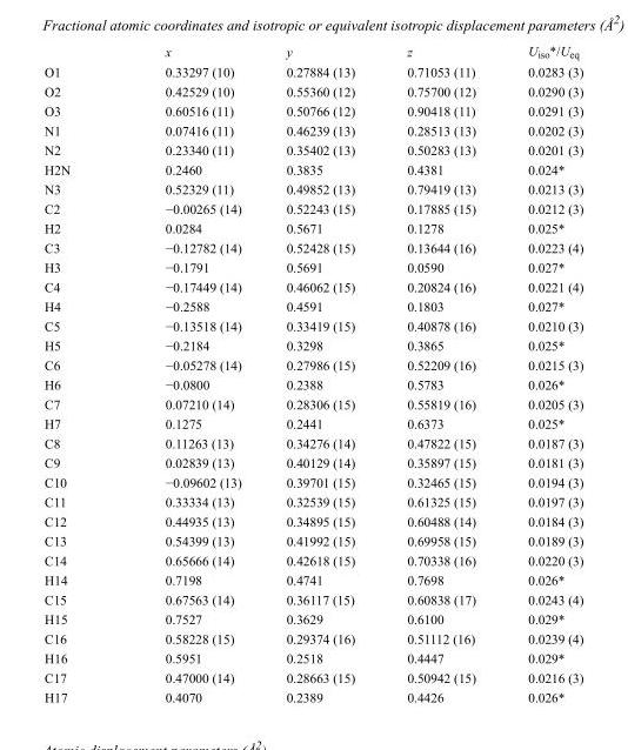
<table><thead><tr><td></td><td>x</td><td>y</td><td>z</td><td>U<sub>iso</sub>*/U<sub>eq</sub></td></tr></thead><tbody><tr><td>O1</td><td>0.33297 (10)</td><td>0.27884 (13)</td><td>0.71053 (11)</td><td>0.0283 (3)</td></tr><tr><td>O2</td><td>0.42529 (10)</td><td>0.55360 (12)</td><td>0.75700 (12)</td><td>0.0290 (3)</td></tr><tr><td>O3</td><td>0.60516 (11)</td><td>0.50766 (12)</td><td>0.90418 (11)</td><td>0.0291 (3)</td></tr><tr><td>N1</td><td>0.07416 (11)</td><td>0.46239 (13)</td><td>0.28513 (13)</td><td>0.0202 (3)</td></tr><tr><td>N2</td><td>0.23340 (11)</td><td>0.35402 (13)</td><td>0.50283 (13)</td><td>0.0201 (3)</td></tr><tr><td>H2N</td><td>0.2460</td><td>0.3835</td><td>0.4381</td><td>0.024*</td></tr><tr><td>N3</td><td>0.52329 (11)</td><td>0.49852 (13)</td><td>0.79419 (13)</td><td>0.0213 (3)</td></tr><tr><td>C2</td><td>−0.00265 (14)</td><td>0.52243 (15)</td><td>0.17885 (15)</td><td>0.0212 (3)</td></tr><tr><td>H2</td><td>0.0284</td><td>0.5671</td><td>0.1278</td><td>0.025*</td></tr><tr><td>C3</td><td>−0.12782 (14)</td><td>0.52428 (15)</td><td>0.13644 (16)</td><td>0.0223 (4)</td></tr><tr><td>H3</td><td>−0.1791</td><td>0.5691</td><td>0.0590</td><td>0.027*</td></tr><tr><td>C4</td><td>−0.17449 (14)</td><td>0.46062 (15)</td><td>0.20824 (16)</td><td>0.0221 (4)</td></tr><tr><td>H4</td><td>−0.2588</td><td>0.4591</td><td>0.1803</td><td>0.027*</td></tr><tr><td>C5</td><td>−0.13518 (14)</td><td>0.33419 (15)</td><td>0.40878 (16)</td><td>0.0210 (3)</td></tr><tr><td>H5</td><td>−0.2184</td><td>0.3298</td><td>0.3865</td><td>0.025*</td></tr><tr><td>C6</td><td>−0.05278 (14)</td><td>0.27986 (15)</td><td>0.52209 (16)</td><td>0.0215 (3)</td></tr><tr><td>H6</td><td>−0.0800</td><td>0.2388</td><td>0.5783</td><td>0.026*</td></tr><tr><td>C7</td><td>0.07210 (14)</td><td>0.28306 (15)</td><td>0.55819 (16)</td><td>0.0205 (3)</td></tr><tr><td>H7</td><td>0.1275</td><td>0.2441</td><td>0.6373</td><td>0.025*</td></tr><tr><td>C8</td><td>0.11263 (13)</td><td>0.34276 (14)</td><td>0.47822 (15)</td><td>0.0187 (3)</td></tr><tr><td>C9</td><td>0.02839 (13)</td><td>0.40129 (14)</td><td>0.35897 (15)</td><td>0.0181 (3)</td></tr><tr><td>C10</td><td>−0.09602 (13)</td><td>0.39701 (15)</td><td>0.32465 (15)</td><td>0.0194 (3)</td></tr><tr><td>C11</td><td>0.33334 (13)</td><td>0.32539 (15)</td><td>0.61325 (15)</td><td>0.0197 (3)</td></tr><tr><td>C12</td><td>0.44935 (13)</td><td>0.34895 (15)</td><td>0.60488 (14)</td><td>0.0184 (3)</td></tr><tr><td>C13</td><td>0.54399 (13)</td><td>0.41992 (15)</td><td>0.69958 (15)</td><td>0.0189 (3)</td></tr><tr><td>C14</td><td>0.65666 (14)</td><td>0.42618 (15)</td><td>0.70338 (16)</td><td>0.0220 (3)</td></tr><tr><td>H14</td><td>0.7198</td><td>0.4741</td><td>0.7698</td><td>0.026*</td></tr><tr><td>C15</td><td>0.67563 (14)</td><td>0.36117 (15)</td><td>0.60838 (17)</td><td>0.0243 (4)</td></tr><tr><td>H15</td><td>0.7527</td><td>0.3629</td><td>0.6100</td><td>0.029*</td></tr><tr><td>C16</td><td>0.58228 (15)</td><td>0.29374 (16)</td><td>0.51112 (16)</td><td>0.0239 (4)</td></tr><tr><td>H16</td><td>0.5951</td><td>0.2518</td><td>0.4447</td><td>0.029*</td></tr><tr><td>C17</td><td>0.47000 (14)</td><td>0.28663 (15)</td><td>0.50942 (15)</td><td>0.0216 (3)</td></tr><tr><td>H17</td><td>0.4070</td><td>0.2389</td><td>0.4426</td><td>0.026*</td></tr></tbody></table>